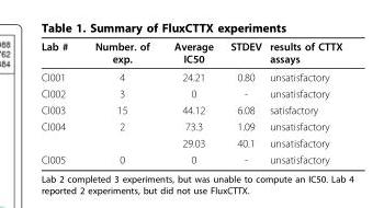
<table><thead><tr><td>Lab #</td><td>Number. of exp.</td><td>Average IC50</td><td>STDEV</td><td>results of CTTX assays</td></tr></thead><tbody><tr><td>CI001</td><td>4</td><td>24.21</td><td>0.80</td><td>unsatisfactory</td></tr><tr><td>CI002</td><td>3</td><td>0</td><td>-</td><td>unsatisfactory</td></tr><tr><td>CI003</td><td>15</td><td>44.12</td><td>6.08</td><td>satisfactory</td></tr><tr><td rowspan="2">CI004</td><td>2</td><td>73.3</td><td>1.09</td><td>unsatisfactory</td></tr><tr><td></td><td>29.03</td><td>40.1</td><td>unsatisfactory</td></tr><tr><td>CI005</td><td>0</td><td>0</td><td>-</td><td>unsatisfactory</td></tr></tbody></table>